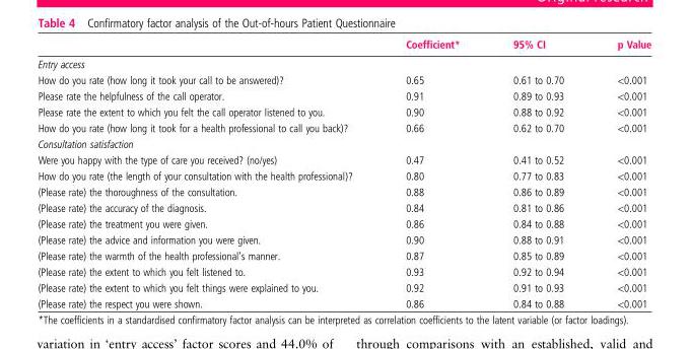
<table><thead><tr><td></td><td>Coefficient*</td><td>95% CI</td><td>p Value</td></tr></thead><tbody><tr><td colspan="4">Entry access</td></tr><tr><td>How do you rate (how long it took your call to be answered)?</td><td>0.65</td><td>0.61 to 0.70</td><td>&lt;0.001</td></tr><tr><td>Please rate the helpfulness of the call operator.</td><td>0.91</td><td>0.89 to 0.93</td><td>&lt;0.001</td></tr><tr><td>Please rate the extent to which you felt the call operator listened to you.</td><td>0.90</td><td>0.88 to 0.92</td><td>&lt;0.001</td></tr><tr><td>How do you rate (how long it took for a health professional to call you back)?</td><td>0.66</td><td>0.62 to 0.70</td><td>&lt;0.001</td></tr><tr><td colspan="4">Consultation satisfaction</td></tr><tr><td>Were you happy with the type of care you received? (no/yes)</td><td>0.47</td><td>0.41 to 0.52</td><td>&lt;0.001</td></tr><tr><td>How do you rate (the length of your consultation with the health professional)?</td><td>0.80</td><td>0.77 to 0.83</td><td>&lt;0.001</td></tr><tr><td>(Please rate) the thoroughness of the consultation.</td><td>0.88</td><td>0.86 to 0.89</td><td>&lt;0.001</td></tr><tr><td>(Please rate) the accuracy of the diagnosis.</td><td>0.84</td><td>0.81 to 0.86</td><td>&lt;0.001</td></tr><tr><td>(Please rate) the treatment you were given.</td><td>0.86</td><td>0.84 to 0.88</td><td>&lt;0.001</td></tr><tr><td>(Please rate) the advice and information you were given.</td><td>0.90</td><td>0.88 to 0.91</td><td>&lt;0.001</td></tr><tr><td>(Please rate) the warmth of the health professional’s manner.</td><td>0.87</td><td>0.85 to 0.89</td><td>&lt;0.001</td></tr><tr><td>(Please rate) the extent to which you felt listened to.</td><td>0.93</td><td>0.92 to 0.94</td><td>&lt;0.001</td></tr><tr><td>(Please rate) the extent to which you felt things were explained to you.</td><td>0.92</td><td>0.91 to 0.93</td><td>&lt;0.001</td></tr><tr><td>(Please rate) the respect you were shown.</td><td>0.86</td><td>0.84 to 0.88</td><td>&lt;0.001</td></tr></tbody></table>